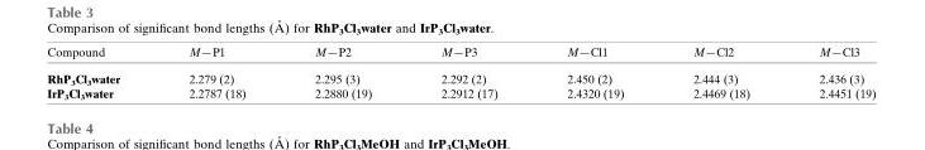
<table><thead><tr><td>Compound</td><td>M—P1</td><td>M—P2</td><td>M—P3</td><td>M—Cl1</td><td>M—Cl2</td><td>M—Cl3</td></tr></thead><tbody><tr><td>RhP<sub>3</sub>Cl<sub>3</sub>water</td><td>2.279 (2)</td><td>2.295 (3)</td><td>2.292 (2)</td><td>2.450 (2)</td><td>2.444 (3)</td><td>2.436 (3)</td></tr><tr><td>IrP<sub>3</sub>Cl<sub>3</sub>water</td><td>2.2787 (18)</td><td>2.2880 (19)</td><td>2.2912 (17)</td><td>2.4320 (19)</td><td>2.4469 (18)</td><td>2.4451 (19)</td></tr></tbody></table>